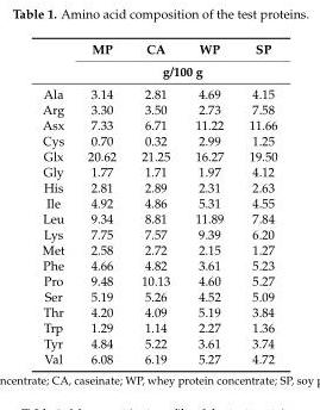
<table><thead><tr><td rowspan="2"></td><td>MP</td><td>CA</td><td>WP</td><td>SP</td></tr><tr><td colspan="4">g/100 g</td></tr></thead><tbody><tr><td>Ala</td><td>3.14</td><td>2.81</td><td>4.69</td><td>4.15</td></tr><tr><td>Arg</td><td>3.30</td><td>3.50</td><td>2.73</td><td>7.58</td></tr><tr><td>Asx</td><td>7.33</td><td>6.71</td><td>11.22</td><td>11.66</td></tr><tr><td>Cys</td><td>0.70</td><td>0.32</td><td>2.99</td><td>1.25</td></tr><tr><td>Glx</td><td>20.62</td><td>21.25</td><td>16.27</td><td>19.50</td></tr><tr><td>Gly</td><td>1.77</td><td>1.71</td><td>1.97</td><td>4.12</td></tr><tr><td>His</td><td>2.81</td><td>2.89</td><td>2.31</td><td>2.63</td></tr><tr><td>Ile</td><td>4.92</td><td>4.86</td><td>5.31</td><td>4.55</td></tr><tr><td>Leu</td><td>9.34</td><td>8.81</td><td>11.89</td><td>7.84</td></tr><tr><td>Lys</td><td>7.75</td><td>7.57</td><td>9.39</td><td>6.20</td></tr><tr><td>Met</td><td>2.58</td><td>2.72</td><td>2.15</td><td>1.27</td></tr><tr><td>Phe</td><td>4.66</td><td>4.82</td><td>3.61</td><td>5.23</td></tr><tr><td>Pro</td><td>9.48</td><td>10.13</td><td>4.60</td><td>5.27</td></tr><tr><td>Ser</td><td>5.19</td><td>5.26</td><td>4.52</td><td>5.09</td></tr><tr><td>Thr</td><td>4.20</td><td>4.09</td><td>5.19</td><td>3.84</td></tr><tr><td>Trp</td><td>1.29</td><td>1.14</td><td>2.27</td><td>1.36</td></tr><tr><td>Tyr</td><td>4.84</td><td>5.22</td><td>3.61</td><td>3.74</td></tr><tr><td>Val</td><td>6.08</td><td>6.19</td><td>5.27</td><td>4.72</td></tr></tbody></table>